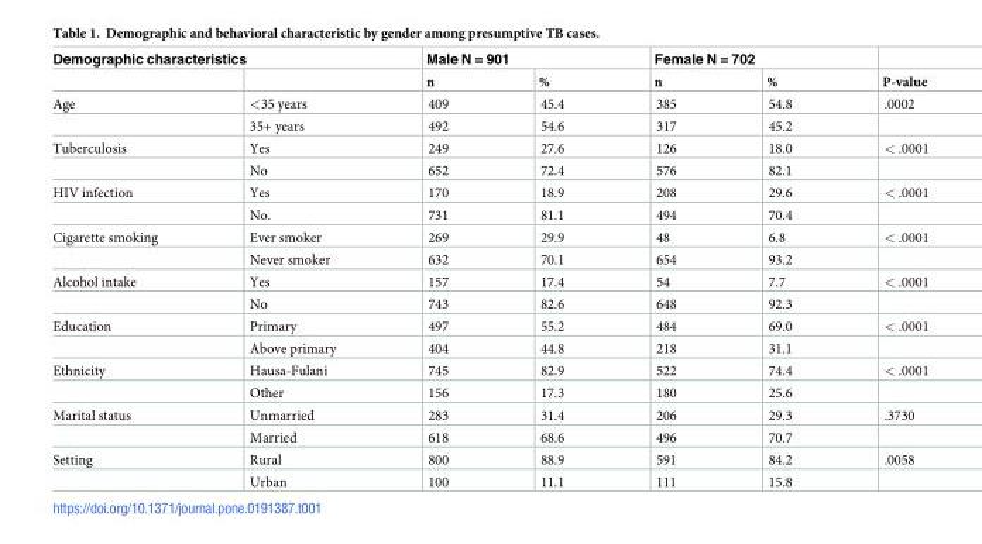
<table><thead><tr><td colspan="2">Demographic characteristics</td><td colspan="2">Male N = 901</td><td colspan="2">Female N = 702</td><td rowspan="2">P-value</td></tr><tr><td></td><td></td><td>n</td><td>%</td><td>n</td><td>%</td></tr></thead><tbody><tr><td rowspan="2">Age</td><td>&lt;35 years</td><td>409</td><td>45.4</td><td>385</td><td>54.8</td><td>.0002</td></tr><tr><td>35+ years</td><td>492</td><td>54.6</td><td>317</td><td>45.2</td><td></td></tr><tr><td rowspan="2">Tuberculosis</td><td>Yes</td><td>249</td><td>27.6</td><td>126</td><td>18.0</td><td>&lt; .0001</td></tr><tr><td>No</td><td>652</td><td>72.4</td><td>576</td><td>82.1</td><td></td></tr><tr><td rowspan="2">HIV infection</td><td>Yes</td><td>170</td><td>18.9</td><td>208</td><td>29.6</td><td>&lt; .0001</td></tr><tr><td>No.</td><td>731</td><td>81.1</td><td>494</td><td>70.4</td><td></td></tr><tr><td rowspan="2">Cigarette smoking</td><td>Ever smoker</td><td>269</td><td>29.9</td><td>48</td><td>6.8</td><td>&lt; .0001</td></tr><tr><td>Never smoker</td><td>632</td><td>70.1</td><td>654</td><td>93.2</td><td></td></tr><tr><td rowspan="2">Alcohol intake</td><td>Yes</td><td>157</td><td>17.4</td><td>54</td><td>7.7</td><td>&lt; .0001</td></tr><tr><td>No</td><td>743</td><td>82.6</td><td>648</td><td>92.3</td><td></td></tr><tr><td rowspan="2">Education</td><td>Primary</td><td>497</td><td>55.2</td><td>484</td><td>69.0</td><td>&lt; .0001</td></tr><tr><td>Above primary</td><td>404</td><td>44.8</td><td>218</td><td>31.1</td><td></td></tr><tr><td rowspan="2">Ethnicity</td><td>Hausa-Fulani</td><td>745</td><td>82.9</td><td>522</td><td>74.4</td><td>&lt; .0001</td></tr><tr><td>Other</td><td>156</td><td>17.3</td><td>180</td><td>25.6</td><td></td></tr><tr><td rowspan="2">Marital status</td><td>Unmarried</td><td>283</td><td>31.4</td><td>206</td><td>29.3</td><td>.3730</td></tr><tr><td>Married</td><td>618</td><td>68.6</td><td>496</td><td>70.7</td><td></td></tr><tr><td rowspan="2">Setting</td><td>Rural</td><td>800</td><td>88.9</td><td>591</td><td>84.2</td><td>.0058</td></tr><tr><td>Urban</td><td>100</td><td>11.1</td><td>111</td><td>15.8</td><td></td></tr></tbody></table>